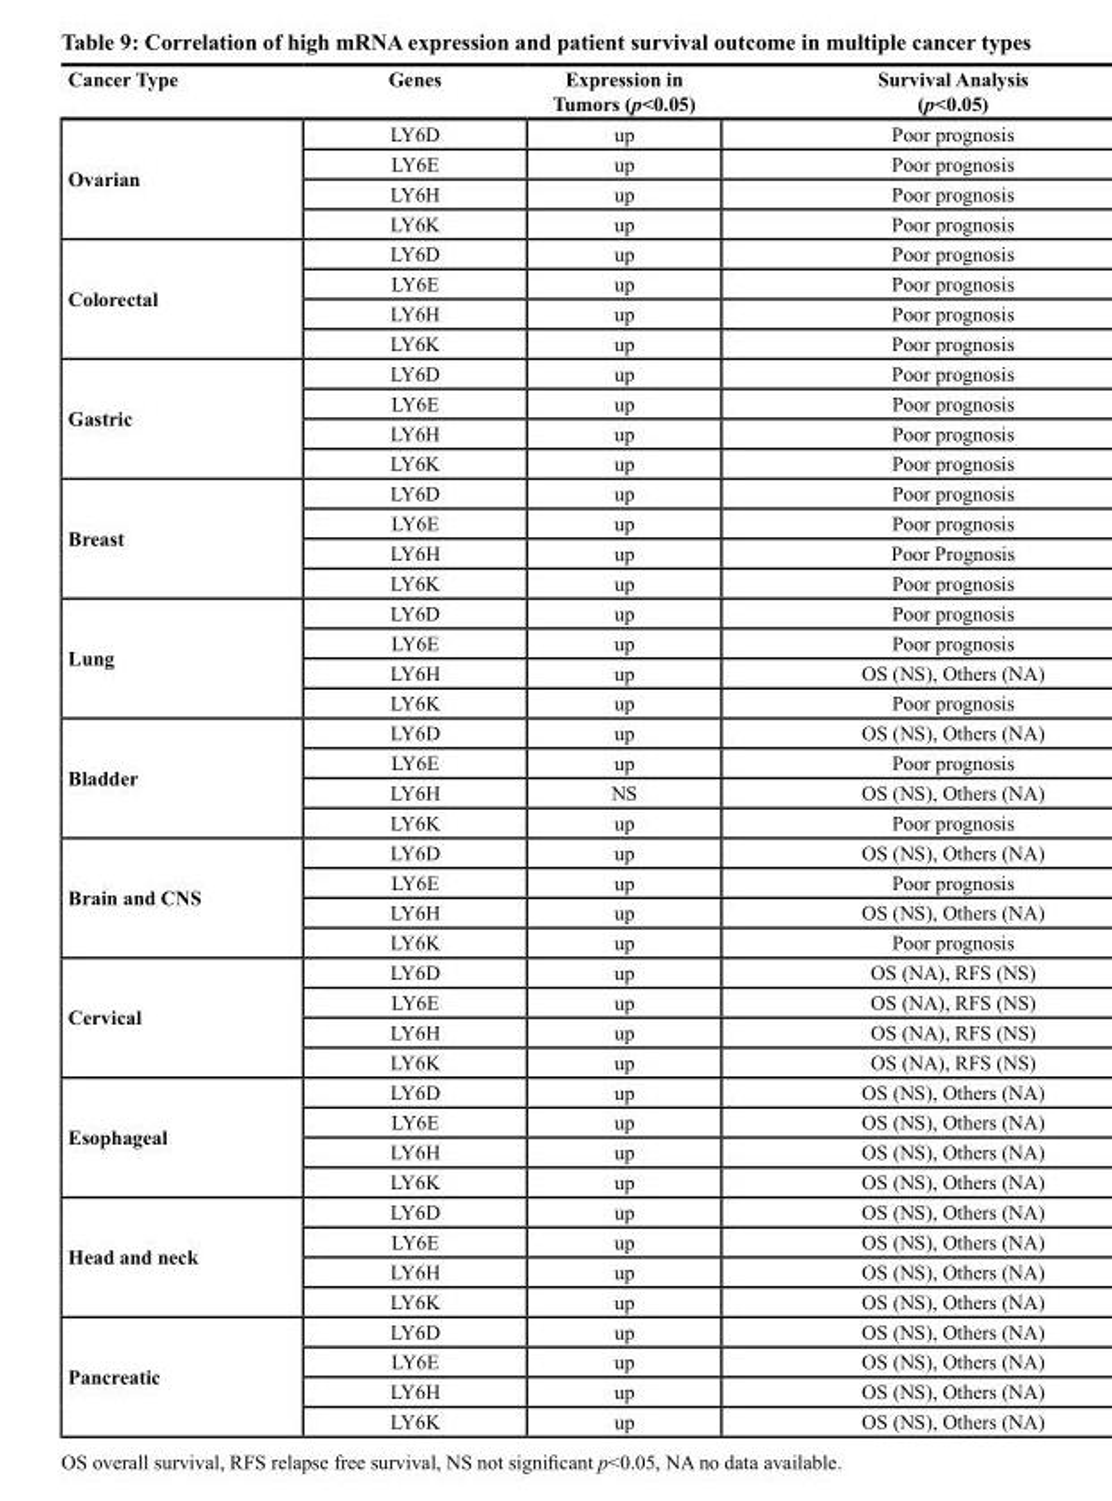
<table><thead><tr><td>Cancer Type</td><td>Genes</td><td>Expression in Tumors (p&lt;0.05)</td><td>Survival Analysis (p&lt;0.05)</td></tr></thead><tbody><tr><td rowspan="4">Ovarian</td><td>LY6D</td><td>up</td><td>Poor prognosis</td></tr><tr><td>LY6E</td><td>up</td><td>Poor prognosis</td></tr><tr><td>LY6H</td><td>up</td><td>Poor prognosis</td></tr><tr><td>LY6K</td><td>up</td><td>Poor prognosis</td></tr><tr><td rowspan="4">Colorectal</td><td>LY6D</td><td>up</td><td>Poor prognosis</td></tr><tr><td>LY6E</td><td>up</td><td>Poor prognosis</td></tr><tr><td>LY6H</td><td>up</td><td>Poor prognosis</td></tr><tr><td>LY6K</td><td>up</td><td>Poor prognosis</td></tr><tr><td rowspan="4">Gastric</td><td>LY6D</td><td>up</td><td>Poor prognosis</td></tr><tr><td>LY6E</td><td>up</td><td>Poor prognosis</td></tr><tr><td>LY6H</td><td>up</td><td>Poor prognosis</td></tr><tr><td>LY6K</td><td>up</td><td>Poor prognosis</td></tr><tr><td rowspan="4">Breast</td><td>LY6D</td><td>up</td><td>Poor prognosis</td></tr><tr><td>LY6E</td><td>up</td><td>Poor prognosis</td></tr><tr><td>LY6H</td><td>up</td><td>Poor Prognosis</td></tr><tr><td>LY6K</td><td>up</td><td>Poor prognosis</td></tr><tr><td rowspan="4">Lung</td><td>LY6D</td><td>up</td><td>Poor prognosis</td></tr><tr><td>LY6E</td><td>up</td><td>Poor prognosis</td></tr><tr><td>LY6H</td><td>up</td><td>OS (NS), Others (NA)</td></tr><tr><td>LY6K</td><td>up</td><td>Poor prognosis</td></tr><tr><td rowspan="4">Bladder</td><td>LY6D</td><td>up</td><td>OS (NS), Others (NA)</td></tr><tr><td>LY6E</td><td>up</td><td>Poor prognosis</td></tr><tr><td>LY6H</td><td>NS</td><td>OS (NS), Others (NA)</td></tr><tr><td>LY6K</td><td>up</td><td>Poor prognosis</td></tr><tr><td rowspan="4">Brain and CNS</td><td>LY6D</td><td>up</td><td>OS (NS), Others (NA)</td></tr><tr><td>LY6E</td><td>up</td><td>Poor prognosis</td></tr><tr><td>LY6H</td><td>up</td><td>OS (NS), Others (NA)</td></tr><tr><td>LY6K</td><td>up</td><td>Poor prognosis</td></tr><tr><td rowspan="4">Cervical</td><td>LY6D</td><td>up</td><td>OS (NA), RFS (NS)</td></tr><tr><td>LY6E</td><td>up</td><td>OS (NA), RFS (NS)</td></tr><tr><td>LY6H</td><td>up</td><td>OS (NA), RFS (NS)</td></tr><tr><td>LY6K</td><td>up</td><td>OS (NA), RFS (NS)</td></tr><tr><td rowspan="4">Esophageal</td><td>LY6D</td><td>up</td><td>OS (NS), Others (NA)</td></tr><tr><td>LY6E</td><td>up</td><td>OS (NS), Others (NA)</td></tr><tr><td>LY6H</td><td>up</td><td>OS (NS), Others (NA)</td></tr><tr><td>LY6K</td><td>up</td><td>OS (NS), Others (NA)</td></tr><tr><td rowspan="4">Head and neck</td><td>LY6D</td><td>up</td><td>OS (NS), Others (NA)</td></tr><tr><td>LY6E</td><td>up</td><td>OS (NS), Others (NA)</td></tr><tr><td>LY6H</td><td>up</td><td>OS (NS), Others (NA)</td></tr><tr><td>LY6K</td><td>up</td><td>OS (NS), Others (NA)</td></tr><tr><td rowspan="4">Pancreatic</td><td>LY6D</td><td>up</td><td>OS (NS), Others (NA)</td></tr><tr><td>LY6E</td><td>up</td><td>OS (NS), Others (NA)</td></tr><tr><td>LY6H</td><td>up</td><td>OS (NS), Others (NA)</td></tr><tr><td>LY6K</td><td>up</td><td>OS (NS), Others (NA)</td></tr></tbody></table>